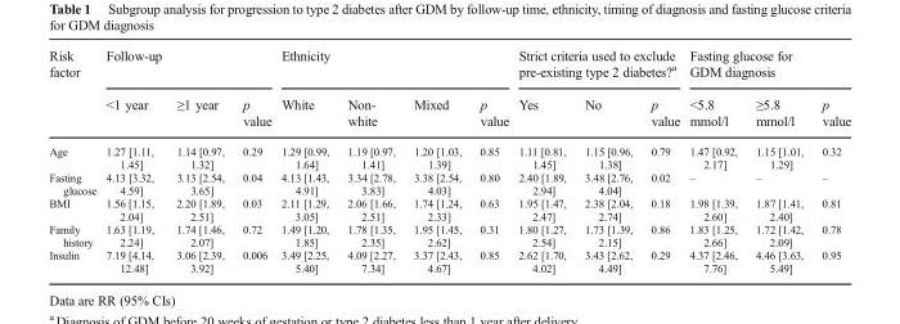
<table><thead><tr><td rowspan="2">Risk factor</td><td colspan="3">Follow-up</td><td colspan="4">Ethnicity</td><td colspan="3">Strict criteria used to exclude pre-existing type 2 diabetes?<sup>a</sup></td><td colspan="3">Fasting glucose for GDM diagnosis</td></tr><tr><td>&lt;1 year</td><td>≥1 year</td><td>p value</td><td>White</td><td>Non- white</td><td>Mixed</td><td>p value</td><td>Yes</td><td>No</td><td>p value</td><td>&lt;5.8 mmol/l</td><td>≥5.8 mmol/l</td><td>p value</td></tr></thead><tbody><tr><td>Age</td><td>1.27 [1.11, 1.45]</td><td>1.14 [0.97, 1.32]</td><td>0.29</td><td>1.29 [0.99, 1.64]</td><td>1.19 [0.97, 1.41]</td><td>1.20 [1.03, 1.39]</td><td>0.85</td><td>1.11 [0.81, 1.45]</td><td>1.15 [0.96, 1.38]</td><td>0.79</td><td>1.47 [0.92, 2.17]</td><td>1.15 [1.01, 1.29]</td><td>0.32</td></tr><tr><td>Fasting glucose</td><td>4.13 [3.32, 4.59]</td><td>3.13 [2.54, 3.65]</td><td>0.04</td><td>4.13 [1.43, 4.91]</td><td>3.34 [2.78, 3.83]</td><td>3.38 [2.54, 4.03]</td><td>0.80</td><td>2.40 [1.89, 2.94]</td><td>3.48 [2.76, 4.04]</td><td>0.02</td><td>–</td><td>–</td><td>–</td></tr><tr><td>BMI</td><td>1.56 [1.15, 2.04]</td><td>2.20 [1.89, 2.51]</td><td>0.03</td><td>2.11 [1.29, 3.05]</td><td>2.06 [1.66, 2.51]</td><td>1.74 [1.24, 2.33]</td><td>0.63</td><td>1.95 [1.47, 2.47]</td><td>2.38 [2.04, 2.74]</td><td>0.18</td><td>1.98 [1.39, 2.60]</td><td>1.87 [1.41, 2.40]</td><td>0.81</td></tr><tr><td>Family history</td><td>1.63 [1.19, 2.24]</td><td>1.74 [1.46, 2.07]</td><td>0.72</td><td>1.49 [1.20, 1.85]</td><td>1.78 [1.35, 2.35]</td><td>1.95 [1.45, 2.62]</td><td>0.31</td><td>1.80 [1.27, 2.54]</td><td>1.73 [1.39, 2.15]</td><td>0.86</td><td>1.83 [1.25, 2.66]</td><td>1.72 [1.42, 2.09]</td><td>0.78</td></tr><tr><td>Insulin</td><td>7.19 [4.14, 12.48]</td><td>3.06 [2.39, 3.92]</td><td>0.006</td><td>3.49 [2.25, 5.40]</td><td>4.09 [2.27, 7.34]</td><td>3.37 [2.43, 4.67]</td><td>0.85</td><td>2.62 [1.70, 4.02]</td><td>3.43 [2.62, 4.49]</td><td>0.29</td><td>4.37 [2.46, 7.76]</td><td>4.46 [3.63, 5.49]</td><td>0.95</td></tr></tbody></table>